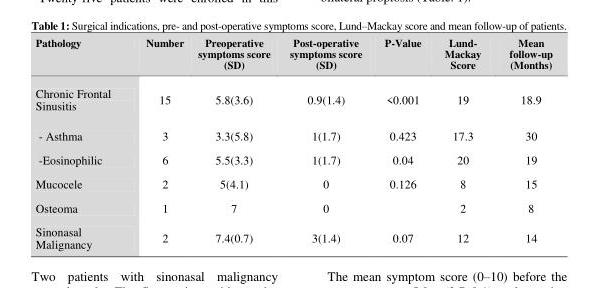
<table><thead><tr><td>Pathology</td><td>Number</td><td>Preoperative symptoms score (SD)</td><td>Post-operative symptoms score (SD)</td><td>P-Value</td><td>Lund- Mackay Score</td><td>Mean follow-up (Months)</td></tr></thead><tbody><tr><td>Chronic Frontal Sinusitis</td><td>15</td><td>5.8(3.6)</td><td>0.9(1.4)</td><td>&lt;0.001</td><td>19</td><td>18.9</td></tr><tr><td>- Asthma</td><td>3</td><td>3.3(5.8)</td><td>1(1.7)</td><td>0.423</td><td>17.3</td><td>30</td></tr><tr><td>-Eosinophilic</td><td>6</td><td>5.5(3.3)</td><td>1(1.7)</td><td>0.04</td><td>20</td><td>19</td></tr><tr><td>Mucocele</td><td>2</td><td>5(4.1)</td><td>0</td><td>0.126</td><td>8</td><td>15</td></tr><tr><td>Osteoma</td><td>1</td><td>7</td><td>0</td><td></td><td>2</td><td>8</td></tr><tr><td>Sinonasal Malignancy</td><td>2</td><td>7.4(0.7)</td><td>3(1.4)</td><td>0.07</td><td>12</td><td>14</td></tr></tbody></table>